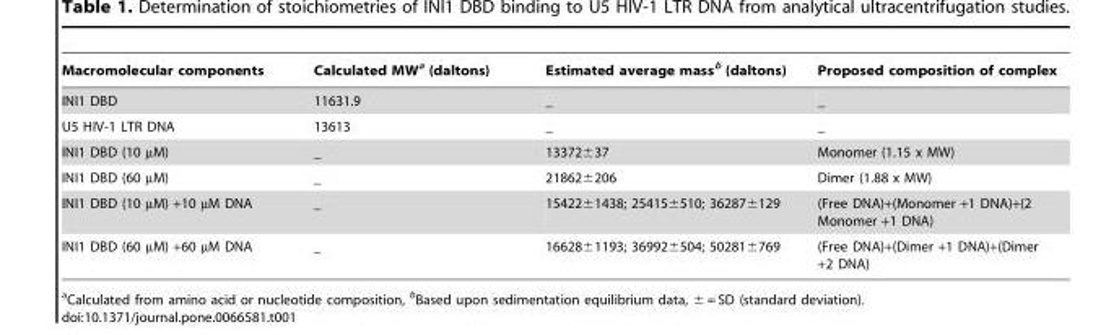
<table><thead><tr><td>Macromolecular components</td><td>Calculated MW<sup>a</sup> (daltons)</td><td>Estimated average mass<sup>b</sup> (daltons)</td><td>Proposed composition of complex</td></tr></thead><tbody><tr><td>INI1 DBD</td><td>11631.9</td><td>_</td><td>_</td></tr><tr><td>U5 HIV-1 LTR DNA</td><td>13613</td><td>_</td><td>_</td></tr><tr><td>INI1 DBD (10 µM)</td><td>_</td><td>13372±37</td><td>Monomer (1.15 x MW)</td></tr><tr><td>INI1 DBD (60 µM)</td><td>_</td><td>21862±206</td><td>Dimer (1.88 x MW)</td></tr><tr><td>INI1 DBD (10 µM) +10 µM DNA</td><td>_</td><td>15422±1438; 25415±510; 36287±129</td><td>(Free DNA)+(Monomer +1 DNA)+(2 Monomer +1 DNA)</td></tr><tr><td>INI1 DBD (60 µM) +60 µM DNA</td><td>_</td><td>16628±1193; 36992±504; 50281±769</td><td>(Free DNA)+(Dimer +1 DNA)+(Dimer +2 DNA)</td></tr></tbody></table>